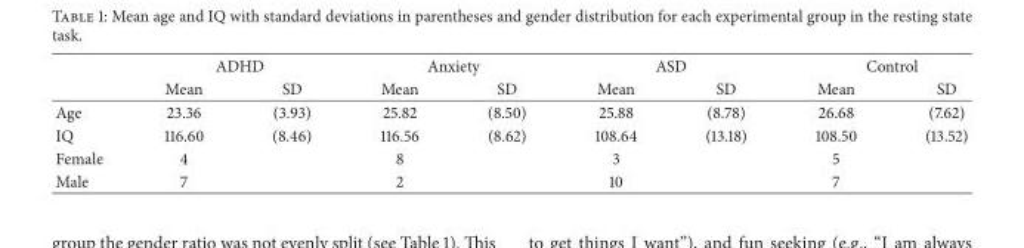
<table><thead><tr><td rowspan="2"></td><td colspan="2">ADHD</td><td colspan="2">Anxiety</td><td colspan="2">ASD</td><td colspan="2">Control</td></tr><tr><td>Mean</td><td>SD</td><td>Mean</td><td>SD</td><td>Mean</td><td>SD</td><td>Mean</td><td>SD</td></tr></thead><tbody><tr><td>Age</td><td>23.36</td><td>(3.93)</td><td>25.82</td><td>(8.50)</td><td>25.88</td><td>(8.78)</td><td>26.68</td><td>(7.62)</td></tr><tr><td>IQ</td><td>116.60</td><td>(8.46)</td><td>116.56</td><td>(8.62)</td><td>108.64</td><td>(13.18)</td><td>108.50</td><td>(13.52)</td></tr><tr><td>Female</td><td>4</td><td></td><td>8</td><td></td><td>3</td><td></td><td>5</td><td></td></tr><tr><td>Male</td><td>7</td><td></td><td>2</td><td></td><td>10</td><td></td><td>7</td><td></td></tr></tbody></table>